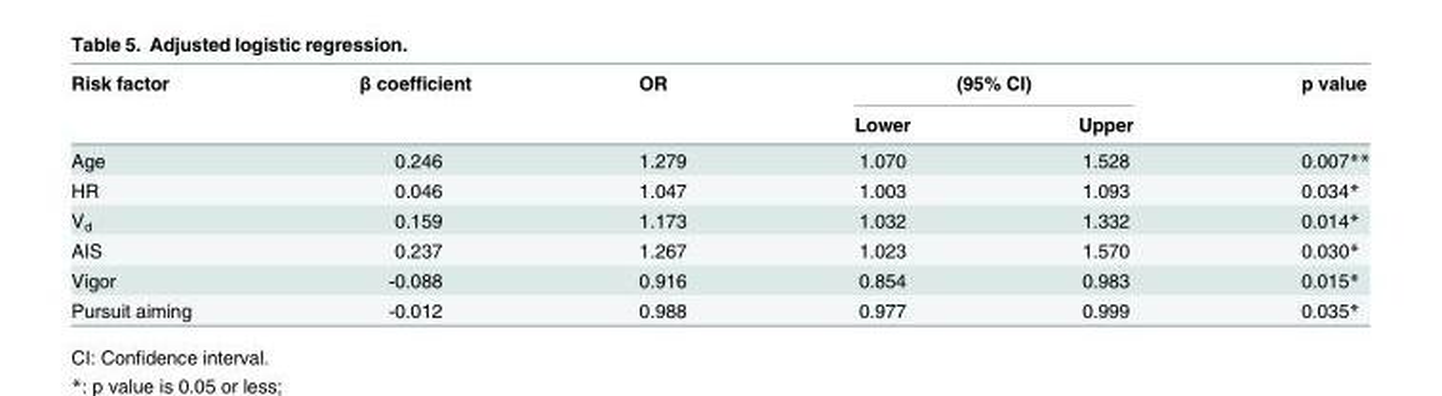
<table><thead><tr><td rowspan="2">Risk factor</td><td rowspan="2">β coefficient</td><td rowspan="2">OR</td><td colspan="2">(95% CI)</td><td rowspan="2">p value</td></tr><tr><td>Lower</td><td>Upper</td></tr></thead><tbody><tr><td>Age</td><td>0.246</td><td>1.279</td><td>1.070</td><td>1.528</td><td>0.007**</td></tr><tr><td>HR</td><td>0.046</td><td>1.047</td><td>1.003</td><td>1.093</td><td>0.034*</td></tr><tr><td>V<sub>d</sub></td><td>0.159</td><td>1.173</td><td>1.032</td><td>1.332</td><td>0.014*</td></tr><tr><td>AIS</td><td>0.237</td><td>1.267</td><td>1.023</td><td>1.570</td><td>0.030*</td></tr><tr><td>Vigor</td><td>-0.088</td><td>0.916</td><td>0.854</td><td>0.983</td><td>0.015*</td></tr><tr><td>Pursuit aiming</td><td>-0.012</td><td>0.988</td><td>0.977</td><td>0.999</td><td>0.035*</td></tr></tbody></table>